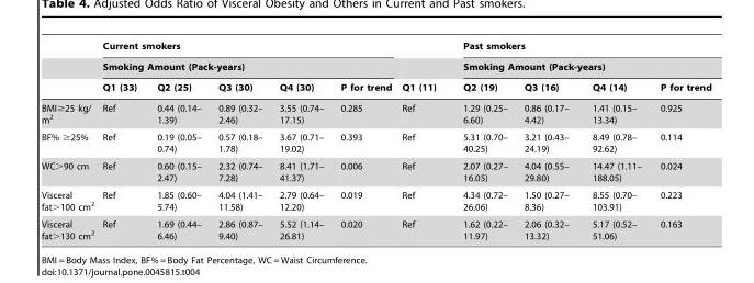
<table><thead><tr><td rowspan="3"></td><td rowspan="2" colspan="5">Current smokers Smoking Amount (Pack-years)</td><td rowspan="3">Q1 (11)</td><td rowspan="2" colspan="4">Past smokers Smoking Amount (Pack-years)</td></tr><tr></tr><tr><td>Q1 (33)</td><td>Q2 (25)</td><td>Q3 (30)</td><td>Q4 (30)</td><td>P for trend</td><td>Q2 (19)</td><td>Q3 (16)</td><td>Q4 (14)</td><td>P for trend</td></tr></thead><tbody><tr><td>BMI≥25 kg/ m<sup>2</sup></td><td>Ref</td><td>0.44 (0.14– 1.39)</td><td>0.89 (0.32– 2.46)</td><td>3.55 (0.74– 17.15)</td><td>0.285</td><td>Ref</td><td>1.29 (0.25– 6.60)</td><td>0.86 (0.17– 4.42)</td><td>1.41 (0.15– 13.34)</td><td>0.925</td></tr><tr><td>BF% ≥25%</td><td>Ref</td><td>0.19 (0.05– 0.74)</td><td>0.57 (0.18– 1.78)</td><td>3.67 (0.71– 19.02)</td><td>0.393</td><td>Ref</td><td>5.31 (0.70– 40.25)</td><td>3.21 (0.43– 24.19)</td><td>8.49 (0.78– 92.62)</td><td>0.114</td></tr><tr><td>WC&gt;90 cm</td><td>Ref</td><td>0.60 (0.15– 2.47)</td><td>2.32 (0.74– 7.28)</td><td>8.41 (1.71– 41.37)</td><td>0.006</td><td>Ref</td><td>2.07 (0.27– 16.05)</td><td>4.04 (0.55– 29.80)</td><td>14.47 (1.11– 188.05)</td><td>0.024</td></tr><tr><td>Visceral fat&gt;100 cm<sup>2</sup></td><td>Ref</td><td>1.85 (0.60– 5.74)</td><td>4.04 (1.41– 11.58)</td><td>2.79 (0.64– 12.20)</td><td>0.019</td><td>Ref</td><td>4.34 (0.72– 26.06)</td><td>1.50 (0.27– 8.36)</td><td>8.55 (0.70– 103.91)</td><td>0.223</td></tr><tr><td>Visceral fat&gt;130 cm<sup>2</sup></td><td>Ref</td><td>1.69 (0.44– 6.46)</td><td>2.86 (0.87– 9.40)</td><td>5.52 (1.14– 26.81)</td><td>0.020</td><td>Ref</td><td>1.62 (0.22– 11.97)</td><td>2.06 (0.32– 13.32)</td><td>5.17 (0.52– 51.06)</td><td>0.163</td></tr></tbody></table>